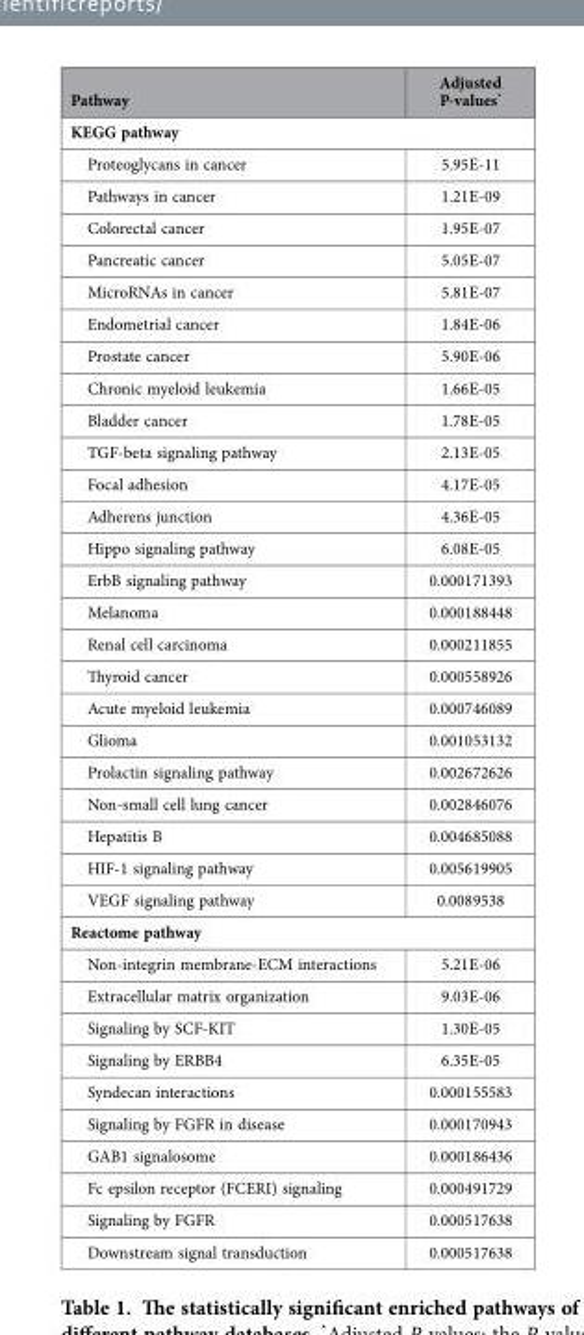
<table><thead><tr><td>Pathway</td><td>Adjusted P-values*</td></tr></thead><tbody><tr><td colspan="2">KEGG pathway</td></tr><tr><td>Proteoglycans in cancer</td><td>5.95E-11</td></tr><tr><td>Pathways in cancer</td><td>1.21E-09</td></tr><tr><td>Colorectal cancer</td><td>1.95E-07</td></tr><tr><td>Pancreatic cancer</td><td>5.05E-07</td></tr><tr><td>MicroRNAs in cancer</td><td>5.81E-07</td></tr><tr><td>Endometrial cancer</td><td>1.84E-06</td></tr><tr><td>Prostate cancer</td><td>5.90E-06</td></tr><tr><td>Chronic myeloid leukemia</td><td>1.66E-05</td></tr><tr><td>Bladder cancer</td><td>1.78E-05</td></tr><tr><td>TGF-beta signaling pathway</td><td>2.13E-05</td></tr><tr><td>Focal adhesion</td><td>4.17E-05</td></tr><tr><td>Adherens junction</td><td>4.36E-05</td></tr><tr><td>Hippo signaling pathway</td><td>6.08E-05</td></tr><tr><td>ErbB signaling pathway</td><td>0.000171393</td></tr><tr><td>Melanoma</td><td>0.000188448</td></tr><tr><td>Renal cell carcinoma</td><td>0.000211855</td></tr><tr><td>Thyroid cancer</td><td>0.000558926</td></tr><tr><td>Acute myeloid leukemia</td><td>0.000746089</td></tr><tr><td>Glioma</td><td>0.001053132</td></tr><tr><td>Prolactin signaling pathway</td><td>0.002672626</td></tr><tr><td>Non-small cell lung cancer</td><td>0.002846076</td></tr><tr><td>Hepatitis B</td><td>0.004685088</td></tr><tr><td>HIF-1 signaling pathway</td><td>0.005619905</td></tr><tr><td>VEGF signaling pathway</td><td>0.0089538</td></tr><tr><td colspan="2">Reactome pathway</td></tr><tr><td>Non-integrin membrane-ECM interactions</td><td>5.21E-06</td></tr><tr><td>Extracellular matrix organization</td><td>9.03E-06</td></tr><tr><td>Signaling by SCF-KIT</td><td>1.30E-05</td></tr><tr><td>Signaling by ERBB4</td><td>6.35E-05</td></tr><tr><td>Syndecan interactions</td><td>0.000155583</td></tr><tr><td>Signaling by FGFR in disease</td><td>0.000170943</td></tr><tr><td>GAB1 signalosome</td><td>0.000186436</td></tr><tr><td>Fc epsilon receptor (FCERI) signaling</td><td>0.000491729</td></tr><tr><td>Signaling by FGFR</td><td>0.000517638</td></tr><tr><td>Downstream signal transduction</td><td>0.000517638</td></tr></tbody></table>